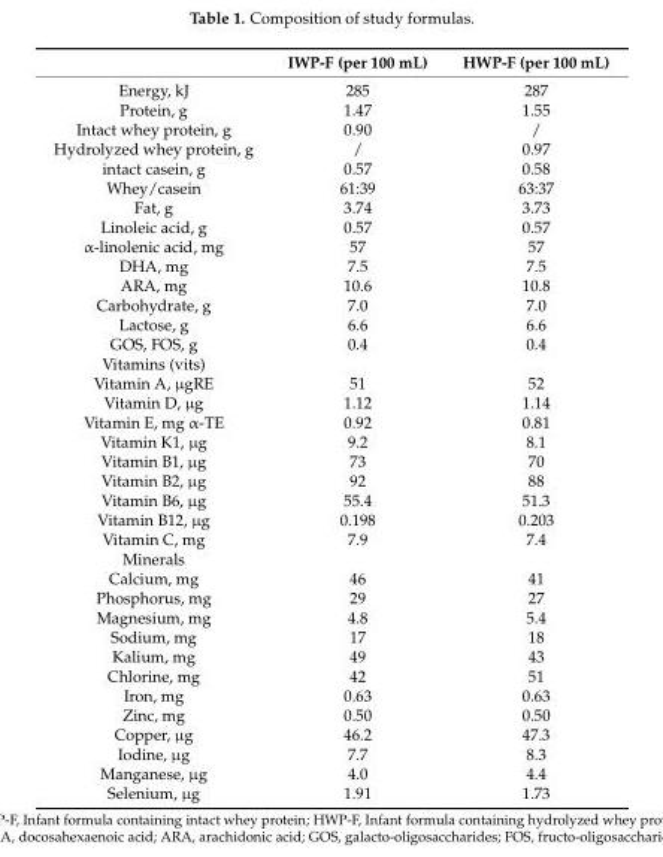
<table><thead><tr><td></td><td>IWP-F (per 100 mL)</td><td>HWP-F (per 100 mL)</td></tr></thead><tbody><tr><td>Energy, kJ</td><td>285</td><td>287</td></tr><tr><td>Protein, g</td><td>1.47</td><td>1.55</td></tr><tr><td>Intact whey protein, g</td><td>0.90</td><td>/</td></tr><tr><td>Hydrolyzed whey protein, g</td><td>/</td><td>0.97</td></tr><tr><td>intact casein, g</td><td>0.57</td><td>0.58</td></tr><tr><td>Whey/casein</td><td>61:39</td><td>63:37</td></tr><tr><td>Fat, g</td><td>3.74</td><td>3.73</td></tr><tr><td>Linoleic acid, g</td><td>0.57</td><td>0.57</td></tr><tr><td>α-linolenic acid, mg</td><td>57</td><td>57</td></tr><tr><td>DHA, mg</td><td>7.5</td><td>7.5</td></tr><tr><td>ARA, mg</td><td>10.6</td><td>10.8</td></tr><tr><td>Carbohydrate, g</td><td>7.0</td><td>7.0</td></tr><tr><td>Lactose, g</td><td>6.6</td><td>6.6</td></tr><tr><td>GOS, FOS, g</td><td>0.4</td><td>0.4</td></tr><tr><td colspan="3">Vitamins (vits)</td></tr><tr><td>Vitamin A, µgRE</td><td>51</td><td>52</td></tr><tr><td>Vitamin D, µg</td><td>1.12</td><td>1.14</td></tr><tr><td>Vitamin E, mg α-TE</td><td>0.92</td><td>0.81</td></tr><tr><td>Vitamin K1, µg</td><td>9.2</td><td>8.1</td></tr><tr><td>Vitamin B1, µg</td><td>73</td><td>70</td></tr><tr><td>Vitamin B2, µg</td><td>92</td><td>88</td></tr><tr><td>Vitamin B6, µg</td><td>55.4</td><td>51.3</td></tr><tr><td>Vitamin B12, µg</td><td>0.198</td><td>0.203</td></tr><tr><td>Vitamin C, mg</td><td>7.9</td><td>7.4</td></tr><tr><td colspan="3">Minerals</td></tr><tr><td>Calcium, mg</td><td>46</td><td>41</td></tr><tr><td>Phosphorus, mg</td><td>29</td><td>27</td></tr><tr><td>Magnesium, mg</td><td>4.8</td><td>5.4</td></tr><tr><td>Sodium, mg</td><td>17</td><td>18</td></tr><tr><td>Kalium, mg</td><td>49</td><td>43</td></tr><tr><td>Chlorine, mg</td><td>42</td><td>51</td></tr><tr><td>Iron, mg</td><td>0.63</td><td>0.63</td></tr><tr><td>Zinc, mg</td><td>0.50</td><td>0.50</td></tr><tr><td>Copper, µg</td><td>46.2</td><td>47.3</td></tr><tr><td>Iodine, µg</td><td>7.7</td><td>8.3</td></tr><tr><td>Manganese, µg</td><td>4.0</td><td>4.4</td></tr><tr><td>Selenium, µg</td><td>1.91</td><td>1.73</td></tr></tbody></table>